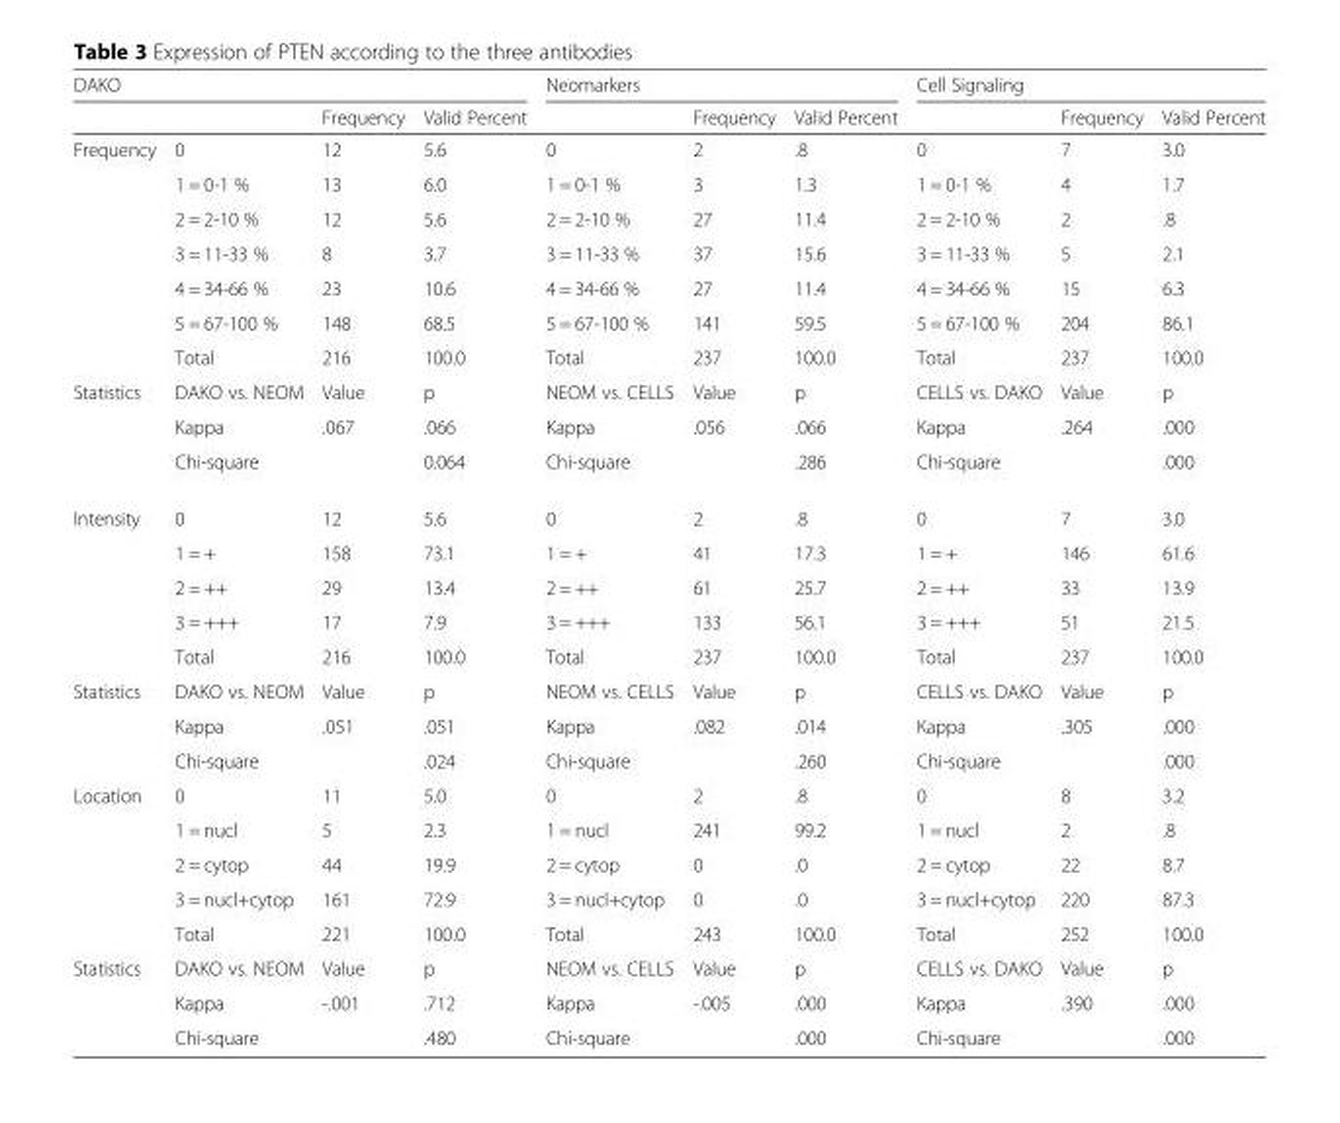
<table><thead><tr><td colspan="4">DAKO</td><td colspan="3">Neomarkers</td><td colspan="3">Cell Signaling</td></tr><tr><td></td><td></td><td>Frequency</td><td>Valid Percent</td><td></td><td>Frequency</td><td>Valid Percent</td><td></td><td>Frequency</td><td>Valid Percent</td></tr></thead><tbody><tr><td rowspan="7">Frequency</td><td>0</td><td>12</td><td>5.6</td><td>0</td><td>2</td><td>.8</td><td>0</td><td>7</td><td>3.0</td></tr><tr><td>1 = 0-1 %</td><td>13</td><td>6.0</td><td>1 = 0-1 %</td><td>3</td><td>1.3</td><td>1 = 0-1 %</td><td>4</td><td>1.7</td></tr><tr><td>2 = 2-10 %</td><td>12</td><td>5.6</td><td>2 = 2-10 %</td><td>27</td><td>11.4</td><td>2 = 2-10 %</td><td>2</td><td>.8</td></tr><tr><td>3 = 11-33 %</td><td>8</td><td>3.7</td><td>3 = 11-33 %</td><td>37</td><td>15.6</td><td>3 = 11-33 %</td><td>5</td><td>2.1</td></tr><tr><td>4 = 34-66 %</td><td>23</td><td>10.6</td><td>4 = 34-66 %</td><td>27</td><td>11.4</td><td>4 = 34-66 %</td><td>15</td><td>6.3</td></tr><tr><td>5 = 67-100 %</td><td>148</td><td>68.5</td><td>5 = 67-100 %</td><td>141</td><td>59.5</td><td>5 = 67-100 %</td><td>204</td><td>86.1</td></tr><tr><td>Total</td><td>216</td><td>100.0</td><td>Total</td><td>237</td><td>100.0</td><td>Total</td><td>237</td><td>100.0</td></tr><tr><td rowspan="3">Statistics</td><td>DAKO vs. NEOM</td><td>Value</td><td>p</td><td>NEOM vs. CELLS</td><td>Value</td><td>p</td><td>CELLS vs. DAKO</td><td>Value</td><td>p</td></tr><tr><td>Kappa</td><td>.067</td><td>.066</td><td>Kappa</td><td>.056</td><td>.066</td><td>Kappa</td><td>.264</td><td>.000</td></tr><tr><td>Chi-square</td><td></td><td>0.064</td><td>Chi-square</td><td></td><td>.286</td><td>Chi-square</td><td></td><td>.000</td></tr><tr><td rowspan="5">Intensity</td><td>0</td><td>12</td><td>5.6</td><td>0</td><td>2</td><td>.8</td><td>0</td><td>7</td><td>3.0</td></tr><tr><td>1 = +</td><td>158</td><td>73.1</td><td>1 = +</td><td>41</td><td>17.3</td><td>1 = +</td><td>146</td><td>61.6</td></tr><tr><td>2 = ++</td><td>29</td><td>13.4</td><td>2 = ++</td><td>61</td><td>25.7</td><td>2 = ++</td><td>33</td><td>13.9</td></tr><tr><td>3 = +++</td><td>17</td><td>7.9</td><td>3 = +++</td><td>133</td><td>56.1</td><td>3 = +++</td><td>51</td><td>21.5</td></tr><tr><td>Total</td><td>216</td><td>100.0</td><td>Total</td><td>237</td><td>100.0</td><td>Total</td><td>237</td><td>100.0</td></tr><tr><td rowspan="3">Statistics</td><td>DAKO vs. NEOM</td><td>Value</td><td>p</td><td>NEOM vs. CELLS</td><td>Value</td><td>p</td><td>CELLS vs. DAKO</td><td>Value</td><td>p</td></tr><tr><td>Kappa</td><td>.051</td><td>.051</td><td>Kappa</td><td>.082</td><td>.014</td><td>Kappa</td><td>.305</td><td>.000</td></tr><tr><td>Chi-square</td><td></td><td>.024</td><td>Chi-square</td><td></td><td>.260</td><td>Chi-square</td><td></td><td>.000</td></tr><tr><td rowspan="5">Location</td><td>0</td><td>11</td><td>5.0</td><td>0</td><td>2</td><td>.8</td><td>0</td><td>8</td><td>3.2</td></tr><tr><td>1 = nucl</td><td>5</td><td>2.3</td><td>1 = nucl</td><td>241</td><td>99.2</td><td>1 = nucl</td><td>2</td><td>.8</td></tr><tr><td>2 = cytop</td><td>44</td><td>19.9</td><td>2 = cytop</td><td>0</td><td>.0</td><td>2 = cytop</td><td>22</td><td>8.7</td></tr><tr><td>3 = nucl+cytop</td><td>161</td><td>72.9</td><td>3 = nucl+cytop</td><td>0</td><td>.0</td><td>3 = nucl+cytop</td><td>220</td><td>87.3</td></tr><tr><td>Total</td><td>221</td><td>100.0</td><td>Total</td><td>243</td><td>100.0</td><td>Total</td><td>252</td><td>100.0</td></tr><tr><td rowspan="3">Statistics</td><td>DAKO vs. NEOM</td><td>Value</td><td>p</td><td>NEOM vs. CELLS</td><td>Value</td><td>p</td><td>CELLS vs. DAKO</td><td>Value</td><td>p</td></tr><tr><td>Kappa</td><td>-.001</td><td>.712</td><td>Kappa</td><td>-.005</td><td>.000</td><td>Kappa</td><td>.390</td><td>.000</td></tr><tr><td>Chi-square</td><td></td><td>.480</td><td>Chi-square</td><td></td><td>.000</td><td>Chi-square</td><td></td><td>.000</td></tr></tbody></table>